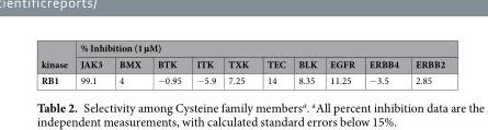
<table><thead><tr><td rowspan="2">kinase</td><td colspan="10">% Inhibition (1 µM)</td></tr><tr><td>JAK3</td><td>BMX</td><td>BTK</td><td>ITK</td><td>TXK</td><td>TEC</td><td>BLK</td><td>EGFR</td><td>ERBB4</td><td>ERBB2</td></tr></thead><tbody><tr><td>RB1</td><td>99.1</td><td>4</td><td>−0.95</td><td>−5.9</td><td>7.25</td><td>14</td><td>8.35</td><td>11.25</td><td>−3.5</td><td>2.85</td></tr></tbody></table>